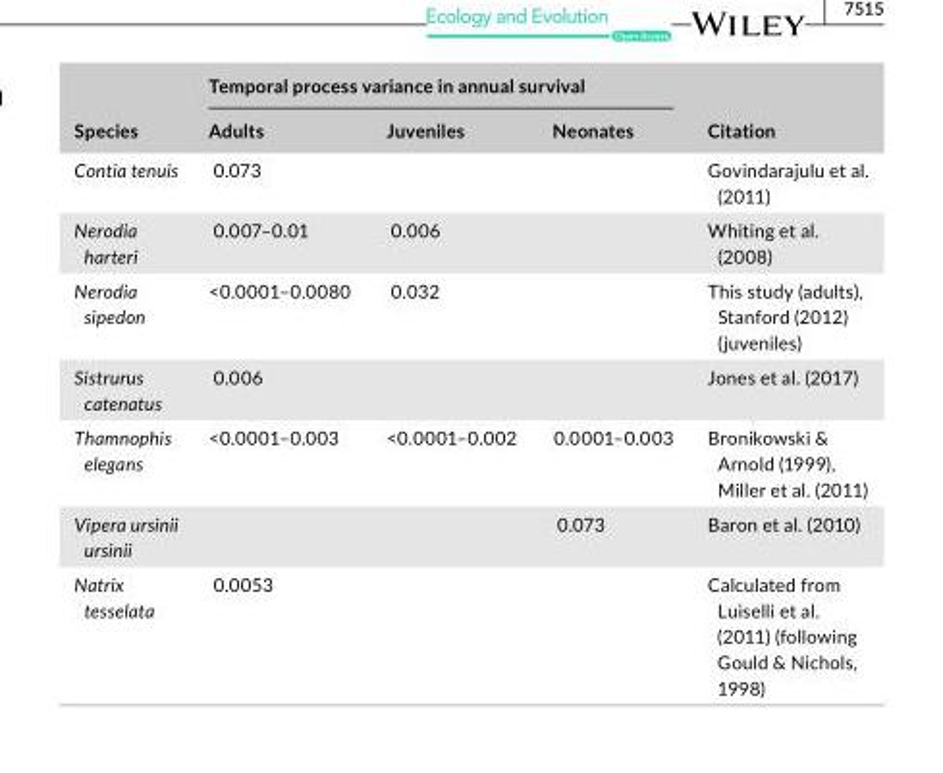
<table><thead><tr><td rowspan="2">Species</td><td colspan="3">Temporal process variance in annual survival</td><td rowspan="2">Citation</td></tr><tr><td>Adults</td><td>Juveniles</td><td>Neonates</td></tr></thead><tbody><tr><td>Contia tenuis</td><td>0.073</td><td></td><td></td><td>Govindarajulu et al. (2011)</td></tr><tr><td>Nerodia harteri</td><td>0.007–0.01</td><td>0.006</td><td></td><td>Whiting et al. (2008)</td></tr><tr><td>Nerodia sipedon</td><td>&lt;0.0001–0.0080</td><td>0.032</td><td></td><td>This study (adults), Stanford (2012) (juveniles)</td></tr><tr><td>Sistrurus catenatus</td><td>0.006</td><td></td><td></td><td>Jones et al. (2017)</td></tr><tr><td>Thamnophis elegans</td><td>&lt;0.0001–0.003</td><td>&lt;0.0001–0.002</td><td>0.0001–0.003</td><td>Bronikowski &amp; Arnold (1999), Miller et al. (2011)</td></tr><tr><td>Vipera ursinii ursinii</td><td></td><td></td><td>0.073</td><td>Baron et al. (2010)</td></tr><tr><td>Natrix tesselata</td><td>0.0053</td><td></td><td></td><td>Calculated from Luiselli et al. (2011) (following Gould &amp; Nichols, 1998)</td></tr></tbody></table>